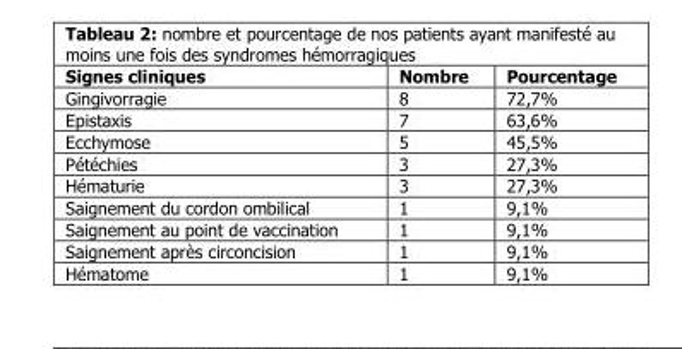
<table><thead><tr><td>Signes cliniques</td><td>Nombre</td><td>Pourcentage</td></tr></thead><tbody><tr><td>Gingivorragie</td><td>8</td><td>72,7%</td></tr><tr><td>Epistaxis</td><td>7</td><td>63,6%</td></tr><tr><td>Ecchymose</td><td>5</td><td>45,5%</td></tr><tr><td>Pétéchies</td><td>3</td><td>27,3%</td></tr><tr><td>Hématurie</td><td>3</td><td>27,3%</td></tr><tr><td>Saignement du cordon ombilical</td><td>1</td><td>9,1%</td></tr><tr><td>Saignement au point de vaccination</td><td>1</td><td>9,1%</td></tr><tr><td>Saignement après circoncision</td><td>1</td><td>9,1%</td></tr><tr><td>Hématome</td><td>1</td><td>9,1%</td></tr></tbody></table>